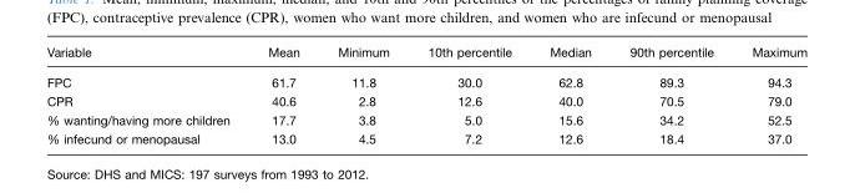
<table><thead><tr><td>Variable</td><td>Mean</td><td>Minimum</td><td>10th percentile</td><td>Median</td><td>90th percentile</td><td>Maximum</td></tr></thead><tbody><tr><td>FPC</td><td>61.7</td><td>11.8</td><td>30.0</td><td>62.8</td><td>89.3</td><td>94.3</td></tr><tr><td>CPR</td><td>40.6</td><td>2.8</td><td>12.6</td><td>40.0</td><td>70.5</td><td>79.0</td></tr><tr><td>% wanting/having more children</td><td>17.7</td><td>3.8</td><td>5.0</td><td>15.6</td><td>34.2</td><td>52.5</td></tr><tr><td>% infecund or menopausal</td><td>13.0</td><td>4.5</td><td>7.2</td><td>12.6</td><td>18.4</td><td>37.0</td></tr></tbody></table>